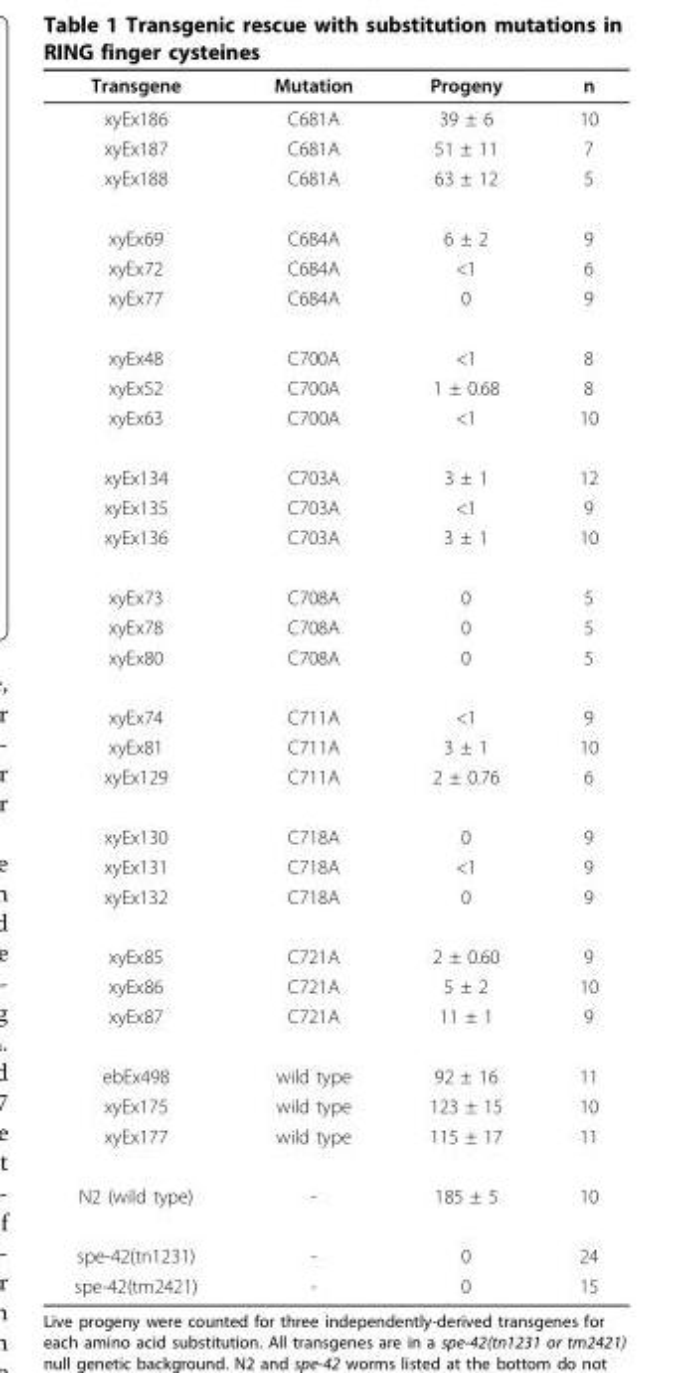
<table><thead><tr><td>Transgene</td><td>Mutation</td><td>Progeny</td><td>n</td></tr></thead><tbody><tr><td>xyEx186</td><td>C681A</td><td>39 ± 6</td><td>10</td></tr><tr><td>xyEx187</td><td>C681A</td><td>51 ± 11</td><td>7</td></tr><tr><td>xyEx188</td><td>C681A</td><td>63 ± 12</td><td>5</td></tr><tr><td>xyEx69</td><td>C684A</td><td>6 ± 2</td><td>9</td></tr><tr><td>xyEx72</td><td>C684A</td><td>&lt;1</td><td>6</td></tr><tr><td>xyEx77</td><td>C684A</td><td>0</td><td>9</td></tr><tr><td>xyEx48</td><td>C700A</td><td>&lt;1</td><td>8</td></tr><tr><td>xyEx52</td><td>C700A</td><td>1 ± 0.68</td><td>8</td></tr><tr><td>xyEx63</td><td>C700A</td><td>&lt;1</td><td>10</td></tr><tr><td>xyEx134</td><td>C703A</td><td>3 ± 1</td><td>12</td></tr><tr><td>xyEx135</td><td>C703A</td><td>&lt;1</td><td>9</td></tr><tr><td>xyEx136</td><td>C703A</td><td>3 ± 1</td><td>10</td></tr><tr><td>xyEx73</td><td>C708A</td><td>0</td><td>5</td></tr><tr><td>xyEx78</td><td>C708A</td><td>0</td><td>5</td></tr><tr><td>xyEx80</td><td>C708A</td><td>0</td><td>5</td></tr><tr><td>xyEx74</td><td>C711A</td><td>&lt;1</td><td>9</td></tr><tr><td>xyEx81</td><td>C711A</td><td>3 ± 1</td><td>10</td></tr><tr><td>xyEx129</td><td>C711A</td><td>2 ± 0.76</td><td>6</td></tr><tr><td>xyEx130</td><td>C718A</td><td>0</td><td>9</td></tr><tr><td>xyEx131</td><td>C718A</td><td>&lt;1</td><td>9</td></tr><tr><td>xyEx132</td><td>C718A</td><td>0</td><td>9</td></tr><tr><td>xyEx85</td><td>C721A</td><td>2 ± 0.60</td><td>9</td></tr><tr><td>xyEx86</td><td>C721A</td><td>5 ± 2</td><td>10</td></tr><tr><td>xyEx87</td><td>C721A</td><td>11 ± 1</td><td>9</td></tr><tr><td>ebEx498</td><td>wild type</td><td>92 ± 16</td><td>11</td></tr><tr><td>xyEx175</td><td>wild type</td><td>123 ± 15</td><td>10</td></tr><tr><td>xyEx177</td><td>wild type</td><td>115 ± 17</td><td>11</td></tr><tr><td>N2 (wild type)</td><td>-</td><td>185 ± 5</td><td>10</td></tr><tr><td>spe-42(tn1231)</td><td>-</td><td>0</td><td>24</td></tr><tr><td>spe-42(tm2421)</td><td>-</td><td>0</td><td>15</td></tr></tbody></table>